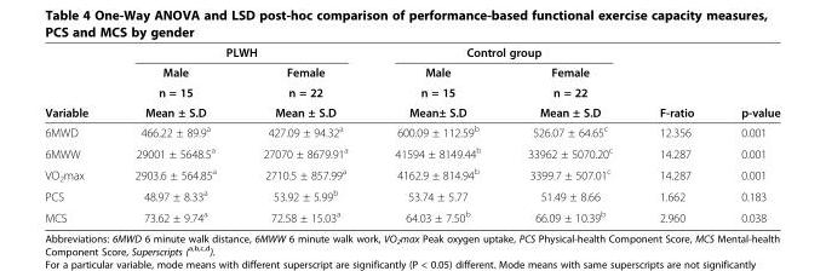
<table><thead><tr><td rowspan="4">Variable</td><td colspan="2">PLWH</td><td colspan="2">Control group</td><td rowspan="4">F-ratio</td><td rowspan="4">p-value</td></tr><tr><td rowspan="3">Male n = 15 Mean ± S.D</td><td rowspan="3">Female n = 22 Mean ± S.D</td><td rowspan="3">Male n = 15 Mean± S.D</td><td rowspan="3">Female n = 22 Mean ± S.D</td></tr><tr></tr><tr></tr></thead><tbody><tr><td>6MWD</td><td>466.22 ± 89.9<sup>a</sup></td><td>427.09 ± 94.32<sup>a</sup></td><td>600.09 ± 112.59<sup>b</sup></td><td>526.07 ± 64.65<sup>c</sup></td><td>12.356</td><td>0.001</td></tr><tr><td>6MWW</td><td>29001 ± 5648.5<sup>a</sup></td><td>27070 ± 8679.91<sup>a</sup></td><td>41594 ± 8149.44<sup>b</sup></td><td>33962 ± 5070.20<sup>c</sup></td><td>14.287</td><td>0.001</td></tr><tr><td>VO<sub>2</sub>max</td><td>2903.6 ± 564.85<sup>a</sup></td><td>2710.5 ± 857.99<sup>a</sup></td><td>4162.9 ± 814.94<sup>b</sup></td><td>3399.7 ± 507.01<sup>c</sup></td><td>14.287</td><td>0.001</td></tr><tr><td>PCS</td><td>48.97 ± 8.33<sup>a</sup></td><td>53.92 ± 5.99<sup>b</sup></td><td>53.74 ± 5.77</td><td>51.49 ± 8.66</td><td>1.662</td><td>0.183</td></tr><tr><td>MCS</td><td>73.62 ± 9.74<sup>a</sup></td><td>72.58 ± 15.03<sup>a</sup></td><td>64.03 ± 7.50<sup>b</sup></td><td>66.09 ± 10.39<sup>b</sup></td><td>2.960</td><td>0.038</td></tr></tbody></table>